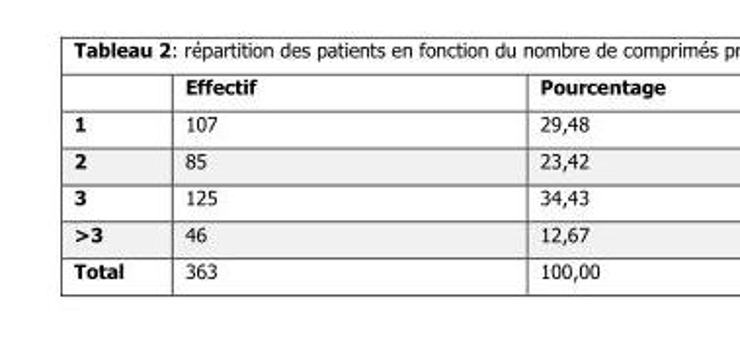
<table><thead><tr><td></td><td>Effectif</td><td>Pourcentage</td></tr></thead><tbody><tr><td>1</td><td>107</td><td>29,48</td></tr><tr><td>2</td><td>85</td><td>23,42</td></tr><tr><td>3</td><td>125</td><td>34,43</td></tr><tr><td>&gt;3</td><td>46</td><td>12,67</td></tr><tr><td>Total</td><td>363</td><td>100,00</td></tr></tbody></table>